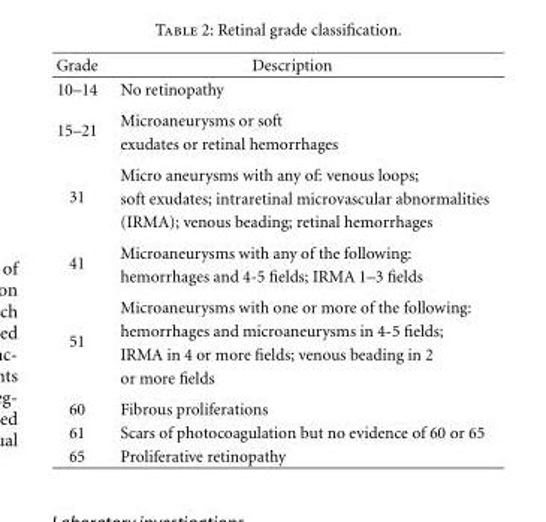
<table><thead><tr><td>Grade</td><td>Description</td></tr></thead><tbody><tr><td>10–14</td><td>No retinopathy</td></tr><tr><td>15–21</td><td>Microaneurysms or soft exudates or retinal hemorrhages</td></tr><tr><td>31</td><td>Micro aneurysms with any of: venous loops; soft exudates; intraretinal microvascular abnormalities (IRMA); venous beading; retinal hemorrhages</td></tr><tr><td>41</td><td>Microaneurysms with any of the following: hemorrhages and 4-5 fields; IRMA 1–3 fields</td></tr><tr><td>51</td><td>Microaneurysms with one or more of the following: hemorrhages and microaneurysms in 4-5 fields; IRMA in 4 or more fields; venous beading in 2 or more fields</td></tr><tr><td>60</td><td>Fibrous proliferations</td></tr><tr><td>61</td><td>Scars of photocoagulation but no evidence of 60 or 65</td></tr><tr><td>65</td><td>Proliferative retinopathy</td></tr></tbody></table>